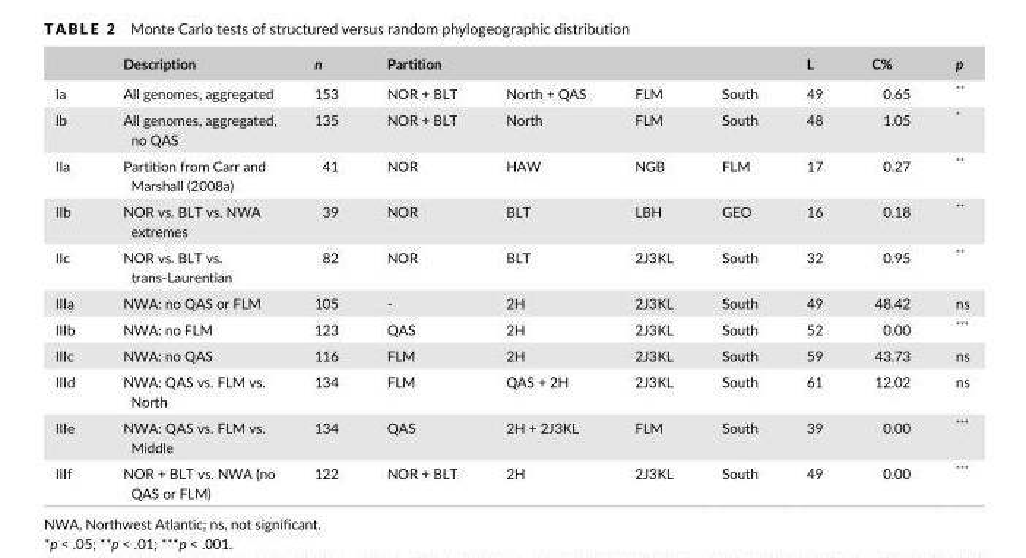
<table><thead><tr><td rowspan="2">Ia</td><td rowspan="2">Description All genomes, aggregated</td><td rowspan="2">n 153</td><td colspan="4">Partition</td><td rowspan="2">L 49</td><td rowspan="2">C% 0.65</td><td rowspan="2">p **</td></tr><tr><td>NOR + BLT</td><td>North + QAS</td><td>FLM</td><td>South</td></tr></thead><tbody><tr><td>Ib</td><td>All genomes, aggregated, no QAS</td><td>135</td><td>NOR + BLT</td><td>North</td><td>FLM</td><td>South</td><td>48</td><td>1.05</td><td>*</td></tr><tr><td>IIa</td><td>Partition from Carr and Marshall (2008a)</td><td>41</td><td>NOR</td><td>HAW</td><td>NGB</td><td>FLM</td><td>17</td><td>0.27</td><td>**</td></tr><tr><td>IIb</td><td>NOR vs. BLT vs. NWA extremes</td><td>39</td><td>NOR</td><td>BLT</td><td>LBH</td><td>GEO</td><td>16</td><td>0.18</td><td>**</td></tr><tr><td>IIc</td><td>NOR vs. BLT vs. trans- Laurentian</td><td>82</td><td>NOR</td><td>BLT</td><td>2J3KL</td><td>South</td><td>32</td><td>0.95</td><td>**</td></tr><tr><td>IIIa</td><td>NWA: no QAS or FLM</td><td>105</td><td>-</td><td>2H</td><td>2J3KL</td><td>South</td><td>49</td><td>48.42</td><td>ns</td></tr><tr><td>IIIb</td><td>NWA: no FLM</td><td>123</td><td>QAS</td><td>2H</td><td>2J3KL</td><td>South</td><td>52</td><td>0.00</td><td>***</td></tr><tr><td>IIIc</td><td>NWA: no QAS</td><td>116</td><td>FLM</td><td>2H</td><td>2J3KL</td><td>South</td><td>59</td><td>43.73</td><td>ns</td></tr><tr><td>IIId</td><td>NWA: QAS vs. FLM vs. North</td><td>134</td><td>FLM</td><td>QAS + 2H</td><td>2J3KL</td><td>South</td><td>61</td><td>12.02</td><td>ns</td></tr><tr><td>IIIe</td><td>NWA: QAS vs. FLM vs. Middle</td><td>134</td><td>QAS</td><td>2H + 2J3KL</td><td>FLM</td><td>South</td><td>39</td><td>0.00</td><td>***</td></tr><tr><td>IIIf</td><td>NOR + BLT vs. NWA (no QAS or FLM)</td><td>122</td><td>NOR + BLT</td><td>2H</td><td>2J3KL</td><td>South</td><td>49</td><td>0.00</td><td>***</td></tr></tbody></table>